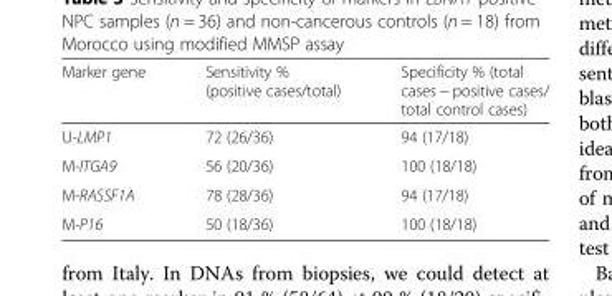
<table><thead><tr><td>Marker gene</td><td>Sensitivity % (positive cases/total)</td><td>Specificity % (total cases − positive cases/ total control cases)</td></tr></thead><tbody><tr><td>U-LMP1</td><td>72 (26/36)</td><td>94 (17/18)</td></tr><tr><td>M-ITGA9</td><td>56 (20/36)</td><td>100 (18/18)</td></tr><tr><td>M-RASSF1A</td><td>78 (28/36)</td><td>94 (17/18)</td></tr><tr><td>M-P16</td><td>50 (18/36)</td><td>100 (18/18)</td></tr></tbody></table>